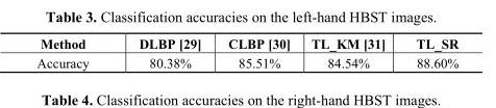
<table><thead><tr><td>Method</td><td>DLBP [29]</td><td>CLBP [30]</td><td>TL_KM [31]</td><td>TL_SR</td></tr></thead><tbody><tr><td>Accuracy</td><td>80.38%</td><td>85.51%</td><td>84.54%</td><td>88.60%</td></tr></tbody></table>